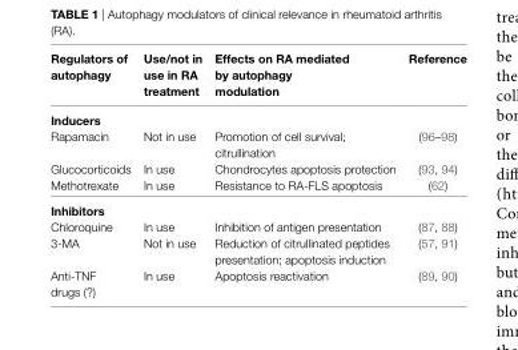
<table><thead><tr><td>Regulators of autophagy</td><td>Use/not in use in RA treatment</td><td>effects on RA mediated by autophagy modulation</td><td>Reference</td></tr></thead><tbody><tr><td colspan="4">inducers</td></tr><tr><td>Rapamacin</td><td>Not in use</td><td>Promotion of cell survival; citrullination</td><td>(96–98)</td></tr><tr><td>Glucocorticoids</td><td>In use</td><td>Chondrocytes apoptosis protection</td><td>(93, 94)</td></tr><tr><td>Methotrexate</td><td>In use</td><td>Resistance to RA-FLS apoptosis</td><td>(62)</td></tr><tr><td colspan="4">inhibitors</td></tr><tr><td>Chloroquine</td><td>In use</td><td>Inhibition of antigen presentation</td><td>(87, 88)</td></tr><tr><td>3-MA</td><td>Not in use</td><td>Reduction of citrullinated peptides presentation; apoptosis induction</td><td>(57, 91)</td></tr><tr><td>Anti-TNF drugs (?)</td><td>In use</td><td>Apoptosis reactivation</td><td>(89, 90)</td></tr></tbody></table>